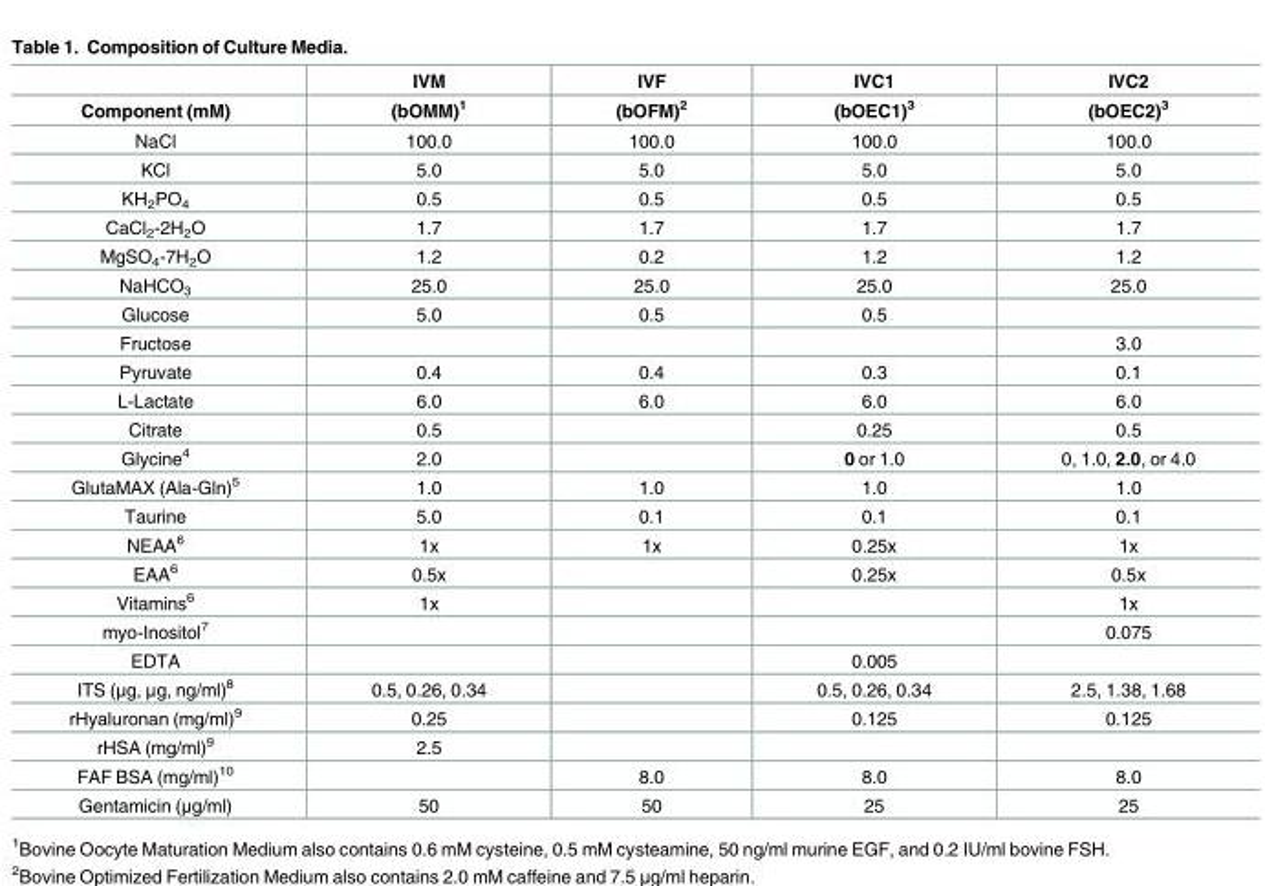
<table><thead><tr><td rowspan="2">Component (mM)</td><td rowspan="2">IVM (bOMM)<sup>1</sup></td><td rowspan="2">IVF (bOFM)<sup>2</sup></td><td rowspan="2">IVC1 (bOEC1)<sup>3</sup></td><td rowspan="2">IVC2 (bOEC2)<sup>3</sup></td></tr><tr></tr></thead><tbody><tr><td>NaCl</td><td>100.0</td><td>100.0</td><td>100.0</td><td>100.0</td></tr><tr><td>KCl</td><td>5.0</td><td>5.0</td><td>5.0</td><td>5.0</td></tr><tr><td>KH<sub>2</sub>PO<sub>4</sub></td><td>0.5</td><td>0.5</td><td>0.5</td><td>0.5</td></tr><tr><td>CaCl<sub>2</sub>-2H<sub>2</sub>O</td><td>1.7</td><td>1.7</td><td>1.7</td><td>1.7</td></tr><tr><td>MgSO<sub>4</sub>-7H<sub>2</sub>O</td><td>1.2</td><td>0.2</td><td>1.2</td><td>1.2</td></tr><tr><td>NaHCO<sub>3</sub></td><td>25.0</td><td>25.0</td><td>25.0</td><td>25.0</td></tr><tr><td>Glucose</td><td>5.0</td><td>0.5</td><td>0.5</td><td></td></tr><tr><td>Fructose</td><td></td><td></td><td></td><td>3.0</td></tr><tr><td>Pyruvate</td><td>0.4</td><td>0.4</td><td>0.3</td><td>0.1</td></tr><tr><td>L-Lactate</td><td>6.0</td><td>6.0</td><td>6.0</td><td>6.0</td></tr><tr><td>Citrate</td><td>0.5</td><td></td><td>0.25</td><td>0.5</td></tr><tr><td>Glycine<sup>4</sup></td><td>2.0</td><td></td><td>0 or 1.0</td><td>0, 1.0, 2.0, or 4.0</td></tr><tr><td>GlutaMAX (Ala-Gln)<sup>5</sup></td><td>1.0</td><td>1.0</td><td>1.0</td><td>1.0</td></tr><tr><td>Taurine</td><td>5.0</td><td>0.1</td><td>0.1</td><td>0.1</td></tr><tr><td>NEAA<sup>6</sup></td><td>1x</td><td>1x</td><td>0.25x</td><td>1x</td></tr><tr><td>EAA<sup>6</sup></td><td>0.5x</td><td></td><td>0.25x</td><td>0.5x</td></tr><tr><td>Vitamins<sup>6</sup></td><td>1x</td><td></td><td></td><td>1x</td></tr><tr><td>myo-Inositol<sup>7</sup></td><td></td><td></td><td></td><td>0.075</td></tr><tr><td>EDTA</td><td></td><td></td><td>0.005</td><td></td></tr><tr><td>ITS (μg, μg, ng/ml)<sup>8</sup></td><td>0.5, 0.26, 0.34</td><td></td><td>0.5, 0.26, 0.34</td><td>2.5, 1.38, 1.68</td></tr><tr><td>rHyaluronan (mg/ml)<sup>9</sup></td><td>0.25</td><td></td><td>0.125</td><td>0.125</td></tr><tr><td>rHSA (mg/ml)<sup>9</sup></td><td>2.5</td><td></td><td></td><td></td></tr><tr><td>FAF BSA (mg/ml)<sup>10</sup></td><td></td><td>8.0</td><td>8.0</td><td>8.0</td></tr><tr><td>Gentamicin (μg/ml)</td><td>50</td><td>50</td><td>25</td><td>25</td></tr></tbody></table>